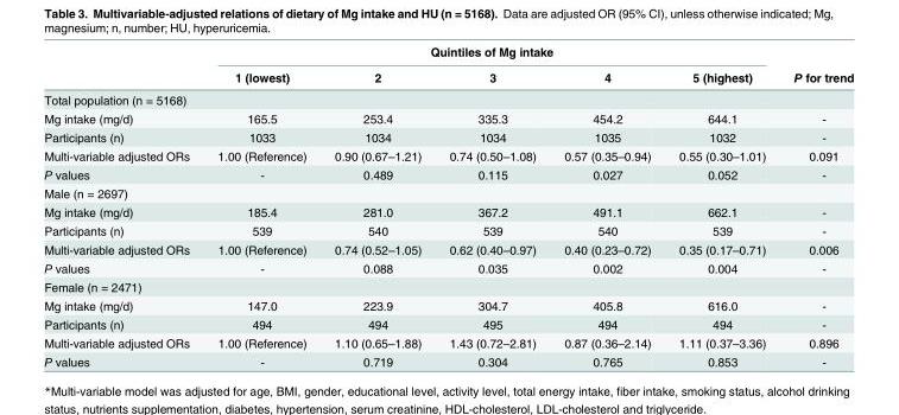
<table><thead><tr><td rowspan="2"></td><td colspan="5">Quintiles of Mg intake</td><td rowspan="2">P for trend</td></tr><tr><td>1 (lowest)</td><td>2</td><td>3</td><td>4</td><td>5 (highest)</td></tr></thead><tbody><tr><td colspan="7">Total population (n = 5168)</td></tr><tr><td>Mg intake (mg/d)</td><td>165.5</td><td>253.4</td><td>335.3</td><td>454.2</td><td>644.1</td><td>-</td></tr><tr><td>Participants (n)</td><td>1033</td><td>1034</td><td>1034</td><td>1035</td><td>1032</td><td>-</td></tr><tr><td>Multi-variable adjusted ORs</td><td>1.00 (Reference)</td><td>0.90 (0.67–1.21)</td><td>0.74 (0.50–1.08)</td><td>0.57 (0.35–0.94)</td><td>0.55 (0.30–1.01)</td><td>0.091</td></tr><tr><td>P values</td><td>-</td><td>0.489</td><td>0.115</td><td>0.027</td><td>0.052</td><td>-</td></tr><tr><td colspan="7">Male (n = 2697)</td></tr><tr><td>Mg intake (mg/d)</td><td>185.4</td><td>281.0</td><td>367.2</td><td>491.1</td><td>662.1</td><td>-</td></tr><tr><td>Participants (n)</td><td>539</td><td>540</td><td>539</td><td>540</td><td>539</td><td>-</td></tr><tr><td>Multi-variable adjusted ORs</td><td>1.00 (Reference)</td><td>0.74 (0.52–1.05)</td><td>0.62 (0.40–0.97)</td><td>0.40 (0.23–0.72)</td><td>0.35 (0.17–0.71)</td><td>0.006</td></tr><tr><td>P values</td><td>-</td><td>0.088</td><td>0.035</td><td>0.002</td><td>0.004</td><td>-</td></tr><tr><td colspan="7">Female (n = 2471)</td></tr><tr><td>Mg intake (mg/d)</td><td>147.0</td><td>223.9</td><td>304.7</td><td>405.8</td><td>616.0</td><td>-</td></tr><tr><td>Participants (n)</td><td>494</td><td>494</td><td>495</td><td>494</td><td>494</td><td>-</td></tr><tr><td>Multi-variable adjusted ORs</td><td>1.00 (Reference)</td><td>1.10 (0.65–1.88)</td><td>1.43 (0.72–2.81)</td><td>0.87 (0.36–2.14)</td><td>1.11 (0.37–3.36)</td><td>0.896</td></tr><tr><td>P values</td><td>-</td><td>0.719</td><td>0.304</td><td>0.765</td><td>0.853</td><td>-</td></tr></tbody></table>